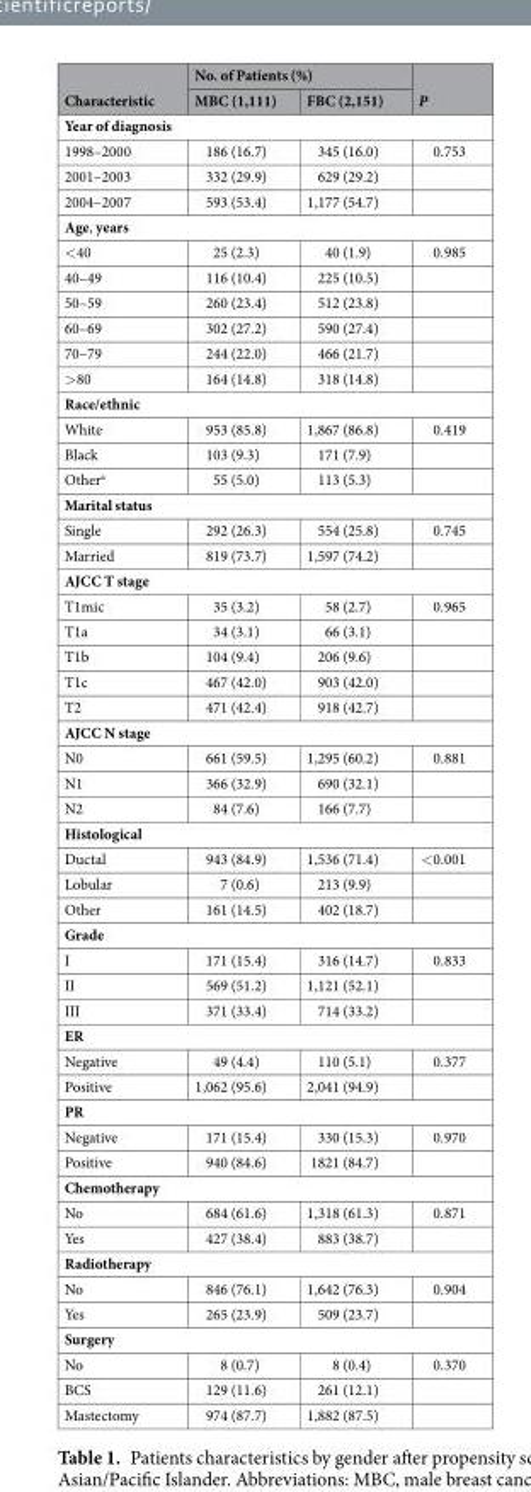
<table><thead><tr><td rowspan="2">Characteristic</td><td colspan="2">No. of Patients (%)</td><td rowspan="2">P</td></tr><tr><td>MBC (1,111)</td><td>FBC (2,151)</td></tr></thead><tbody><tr><td colspan="4">Year of diagnosis</td></tr><tr><td>1998–2000</td><td>186 (16.7)</td><td>345 (16.0)</td><td>0.753</td></tr><tr><td>2001–2003</td><td>332 (29.9)</td><td>629 (29.2)</td><td></td></tr><tr><td>2004–2007</td><td>593 (53.4)</td><td>1,177 (54.7)</td><td></td></tr><tr><td colspan="4">Age, years</td></tr><tr><td>&lt;40</td><td>25 (2.3)</td><td>40 (1.9)</td><td>0.985</td></tr><tr><td>40–49</td><td>116 (10.4)</td><td>225 (10.5)</td><td></td></tr><tr><td>50–59</td><td>260 (23.4)</td><td>512 (23.8)</td><td></td></tr><tr><td>60–69</td><td>302 (27.2)</td><td>590 (27.4)</td><td></td></tr><tr><td>70–79</td><td>244 (22.0)</td><td>466 (21.7)</td><td></td></tr><tr><td>&gt;80</td><td>164 (14.8)</td><td>318 (14.8)</td><td></td></tr><tr><td colspan="4">Race/ethnic</td></tr><tr><td>White</td><td>953 (85.8)</td><td>1,867 (86.8)</td><td>0.419</td></tr><tr><td>Black</td><td>103 (9.3)</td><td>171 (7.9)</td><td></td></tr><tr><td>Other<sup>a</sup></td><td>55 (5.0)</td><td>113 (5.3)</td><td></td></tr><tr><td colspan="4">Marital status</td></tr><tr><td>Single</td><td>292 (26.3)</td><td>554 (25.8)</td><td>0.745</td></tr><tr><td>Married</td><td>819 (73.7)</td><td>1,597 (74.2)</td><td></td></tr><tr><td colspan="4">AJCC T stage</td></tr><tr><td>T1mic</td><td>35 (3.2)</td><td>58 (2.7)</td><td>0.965</td></tr><tr><td>T1a</td><td>34 (3.1)</td><td>66 (3.1)</td><td></td></tr><tr><td>T1b</td><td>104 (9.4)</td><td>206 (9.6)</td><td></td></tr><tr><td>T1c</td><td>467 (42.0)</td><td>903 (42.0)</td><td></td></tr><tr><td>T2</td><td>471 (42.4)</td><td>918 (42.7)</td><td></td></tr><tr><td colspan="4">AJCC N stage</td></tr><tr><td>N0</td><td>661 (59.5)</td><td>1,295 (60.2)</td><td>0.881</td></tr><tr><td>N1</td><td>366 (32.9)</td><td>690 (32.1)</td><td></td></tr><tr><td>N2</td><td>84 (7.6)</td><td>166 (7.7)</td><td></td></tr><tr><td colspan="4">Histological</td></tr><tr><td>Ductal</td><td>943 (84.9)</td><td>1,536 (71.4)</td><td>&lt;0.001</td></tr><tr><td>Lobular</td><td>7 (0.6)</td><td>213 (9.9)</td><td></td></tr><tr><td>Other</td><td>161 (14.5)</td><td>402 (18.7)</td><td></td></tr><tr><td colspan="4">Grade</td></tr><tr><td>I</td><td>171 (15.4)</td><td>316 (14.7)</td><td>0.833</td></tr><tr><td>II</td><td>569 (51.2)</td><td>1,121 (52.1)</td><td></td></tr><tr><td>III</td><td>371 (33.4)</td><td>714 (33.2)</td><td></td></tr><tr><td colspan="4">ER</td></tr><tr><td>Negative</td><td>49 (4.4)</td><td>110 (5.1)</td><td>0.377</td></tr><tr><td>Positive</td><td>1,062 (95.6)</td><td>2,041 (94.9)</td><td></td></tr><tr><td colspan="4">PR</td></tr><tr><td>Negative</td><td>171 (15.4)</td><td>330 (15.3)</td><td>0.970</td></tr><tr><td>Positive</td><td>940 (84.6)</td><td>1821 (84.7)</td><td></td></tr><tr><td colspan="4">Chemotherapy</td></tr><tr><td>No</td><td>684 (61.6)</td><td>1,318 (61.3)</td><td>0.871</td></tr><tr><td>Yes</td><td>427 (38.4)</td><td>883 (38.7)</td><td></td></tr><tr><td colspan="4">Radiotherapy</td></tr><tr><td>No</td><td>846 (76.1)</td><td>1,642 (76.3)</td><td>0.904</td></tr><tr><td>Yes</td><td>265 (23.9)</td><td>509 (23.7)</td><td></td></tr><tr><td colspan="4">Surgery</td></tr><tr><td>No</td><td>8 (0.7)</td><td>8 (0.4)</td><td>0.370</td></tr><tr><td>BCS</td><td>129 (11.6)</td><td>261 (12.1)</td><td></td></tr><tr><td>Mastectomy</td><td>974 (87.7)</td><td>1,882 (87.5)</td><td></td></tr></tbody></table>